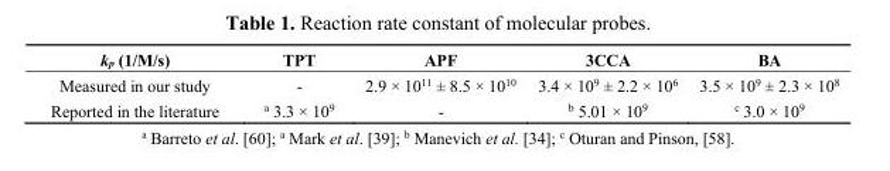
<table><thead><tr><td>k<sub>p</sub> (1/M/s)</td><td>TPT</td><td>APF</td><td>3CCA</td><td>BA</td></tr></thead><tbody><tr><td>Measured in our study</td><td>-</td><td>2.9 × 10<sup>11</sup> ± 8.5 × 10<sup>10</sup></td><td>3.4 × 10<sup>9</sup> ± 2.2 × 10<sup>6</sup></td><td>3.5 × 10<sup>9</sup> ± 2.3 × 10<sup>8</sup></td></tr><tr><td>Reported in the literature</td><td><sup>a</sup> 3.3 × 10<sup>9</sup></td><td>-</td><td><sup>b</sup> 5.01 × 10<sup>9</sup></td><td><sup>c</sup> 3.0 × 10<sup>9</sup></td></tr></tbody></table>